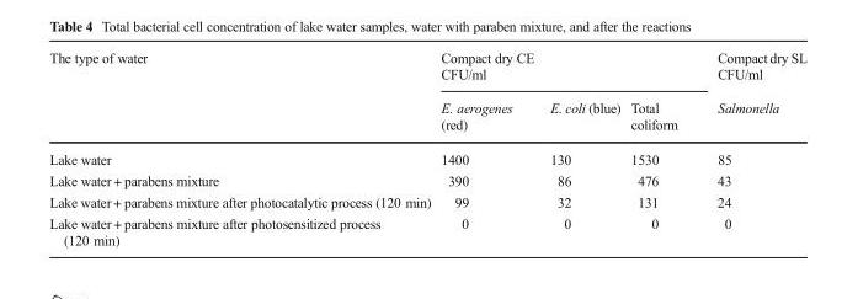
<table><thead><tr><td rowspan="2">The type of water</td><td colspan="3">Compact dry CE CFU/ml</td><td rowspan="2">Compact dry SL CFU/ml Salmonella</td></tr><tr><td>E. aerogenes (red)</td><td>E. coli (blue)</td><td>Total coliform</td></tr></thead><tbody><tr><td>Lake water</td><td>1400</td><td>130</td><td>1530</td><td>85</td></tr><tr><td>Lake water + parabens mixture</td><td>390</td><td>86</td><td>476</td><td>43</td></tr><tr><td>Lake water + parabens mixture after photocatalytic process (120 min)</td><td>99</td><td>32</td><td>131</td><td>24</td></tr><tr><td>Lake water + parabens mixture after photosensitized process (120 min)</td><td>0</td><td>0</td><td>0</td><td>0</td></tr></tbody></table>